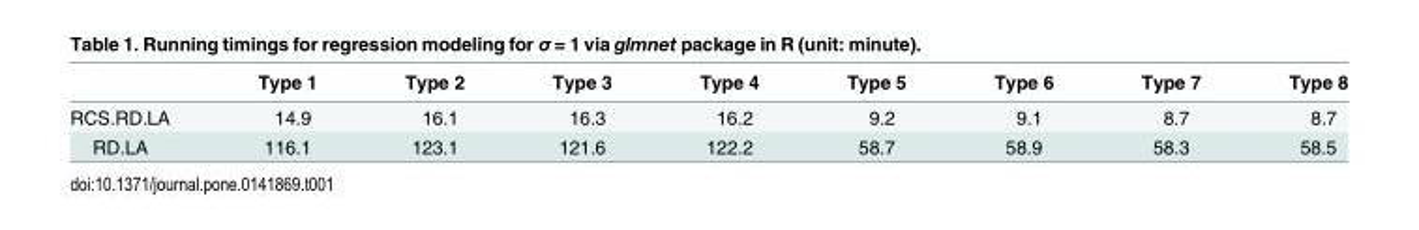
<table><thead><tr><td></td><td>Type 1</td><td>Type 2</td><td>Type 3</td><td>Type 4</td><td>Type 5</td><td>Type 6</td><td>Type 7</td><td>Type 8</td></tr></thead><tbody><tr><td>RCS.RD.LA</td><td>14.9</td><td>16.1</td><td>16.3</td><td>16.2</td><td>9.2</td><td>9.1</td><td>8.7</td><td>8.7</td></tr><tr><td>RD.LA</td><td>116.1</td><td>123.1</td><td>121.6</td><td>122.2</td><td>58.7</td><td>58.9</td><td>58.3</td><td>58.5</td></tr></tbody></table>